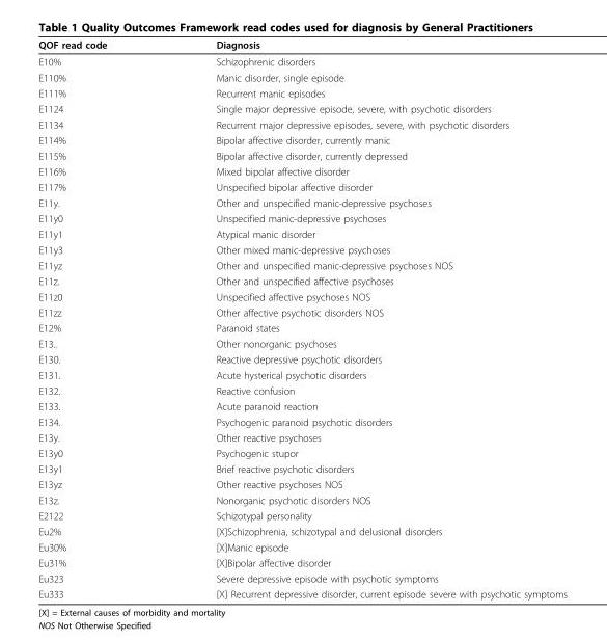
<table><thead><tr><td>QOF read code</td><td>Diagnosis</td></tr></thead><tbody><tr><td>E10%</td><td>Schizophrenic disorders</td></tr><tr><td>E110%</td><td>Manic disorder, single episode</td></tr><tr><td>E111%</td><td>Recurrent manic episodes</td></tr><tr><td>E1124</td><td>Single major depressive episode, severe, with psychotic disorders</td></tr><tr><td>E1134</td><td>Recurrent major depressive episodes, severe, with psychotic disorders</td></tr><tr><td>E114%</td><td>Bipolar affective disorder, currently manic</td></tr><tr><td>E115%</td><td>Bipolar affective disorder, currently depressed</td></tr><tr><td>E116%</td><td>Mixed bipolar affective disorder</td></tr><tr><td>E117%</td><td>Unspecified bipolar affective disorder</td></tr><tr><td>E11y.</td><td>Other and unspecified manic-depressive psychoses</td></tr><tr><td>E11y0</td><td>Unspecified manic-depressive psychoses</td></tr><tr><td>E11y1</td><td>Atypical manic disorder</td></tr><tr><td>E11y3</td><td>Other mixed manic-depressive psychoses</td></tr><tr><td>E11yz</td><td>Other and unspecified manic-depressive psychoses NOS</td></tr><tr><td>E11z.</td><td>Other and unspecified affective psychoses</td></tr><tr><td>E11z0</td><td>Unspecified affective psychoses NOS</td></tr><tr><td>E11zz</td><td>Other affective psychotic disorders NOS</td></tr><tr><td>E12%</td><td>Paranoid states</td></tr><tr><td>E13..</td><td>Other nonorganic psychoses</td></tr><tr><td>E130.</td><td>Reactive depressive psychotic disorders</td></tr><tr><td>E131.</td><td>Acute hysterical psychotic disorders</td></tr><tr><td>E132.</td><td>Reactive confusion</td></tr><tr><td>E133.</td><td>Acute paranoid reaction</td></tr><tr><td>E134.</td><td>Psychogenic paranoid psychotic disorders</td></tr><tr><td>E13y.</td><td>Other reactive psychoses</td></tr><tr><td>E13y0</td><td>Psychogenic stupor</td></tr><tr><td>E13y1</td><td>Brief reactive psychotic disorders</td></tr><tr><td>E13yz</td><td>Other reactive psychoses NOS</td></tr><tr><td>E13z.</td><td>Nonorganic psychotic disorders NOS</td></tr><tr><td>E2122</td><td>Schizotypal personality</td></tr><tr><td>Eu2%</td><td>[X]Schizophrenia, schizotypal and delusional disorders</td></tr><tr><td>Eu30%</td><td>[X]Manic episode</td></tr><tr><td>Eu31%</td><td>[X]Bipolar affective disorder</td></tr><tr><td>Eu323</td><td>Severe depressive episode with psychotic symptoms</td></tr><tr><td>Eu333</td><td>[X] Recurrent depressive disorder, current episode severe with psychotic symptoms</td></tr></tbody></table>